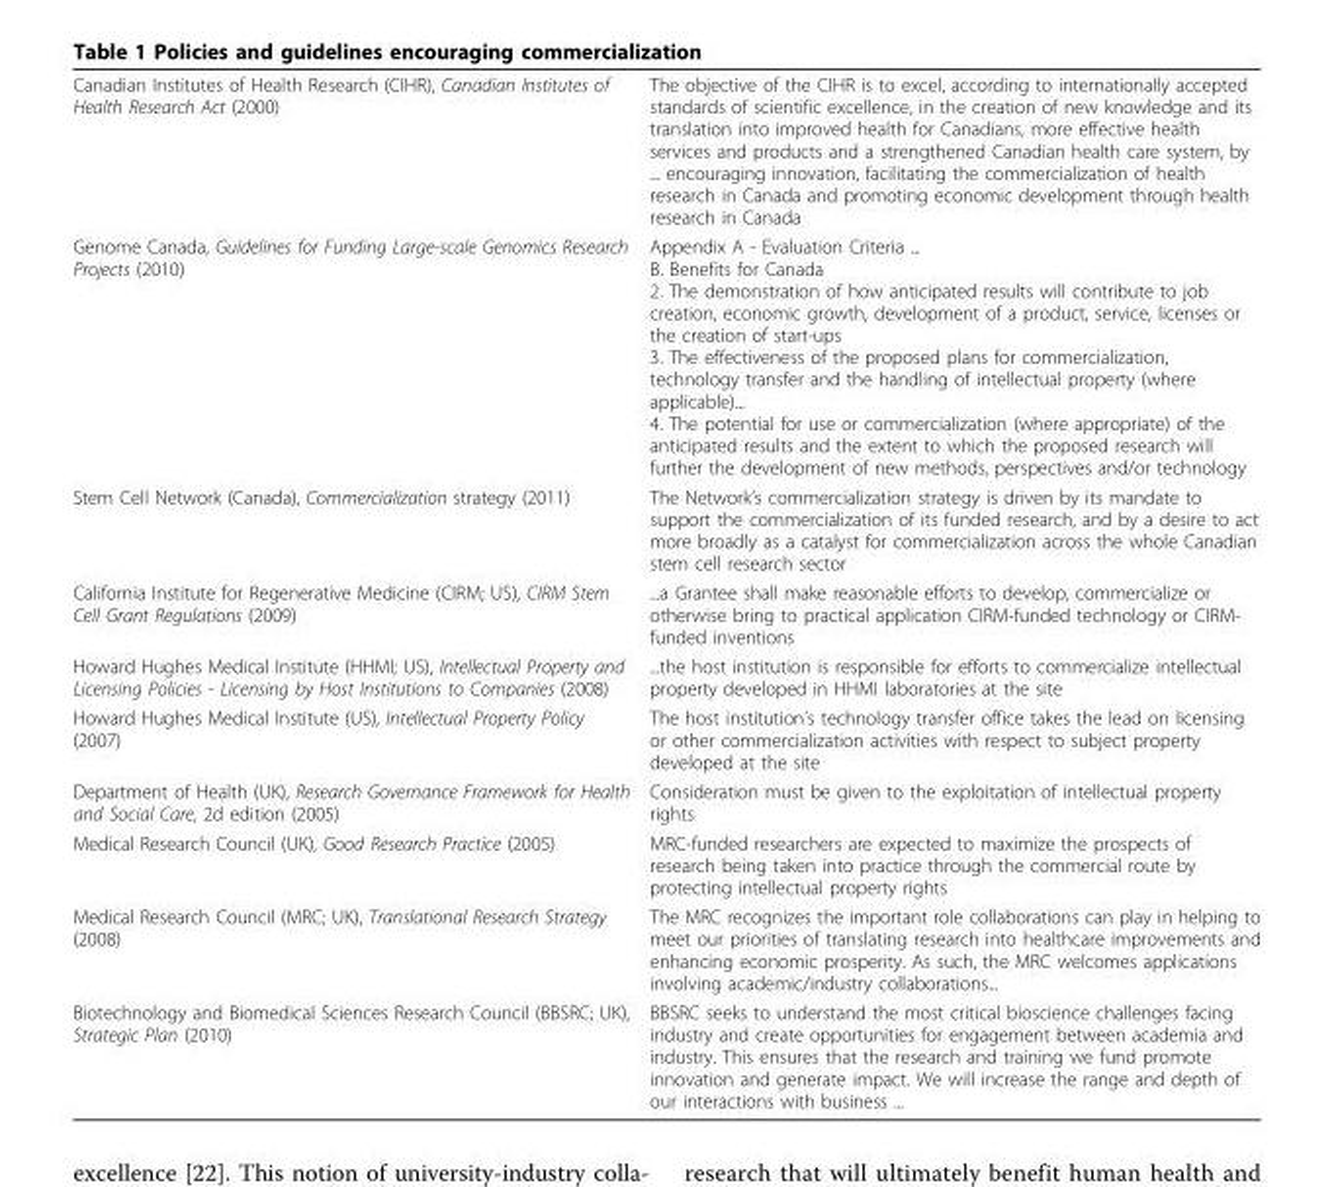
<table><tbody><tr><td>Canadian Institutes of Health Research (CIHR), Canadian Institutes of Health Research Act (2000)</td><td>The objective of the CIHR is to excel, according to internationally accepted standards of scientific excellence, in the creation of new knowledge and its translation into improved health for Canadians, more effective health services and products and a strengthened Canadian health care system, by ... encouraging innovation, facilitating the commercialization of health research in Canada and promoting economic development through health research in Canada</td></tr><tr><td>Genome Canada, Guidelines for Funding Large-scale Genomics Research Projects (2010)</td><td>Appendix A - Evaluation Criteria ... B. Benefits for Canada 2. The demonstration of how anticipated results will contribute to job creation, economic growth, development of a product, service, licenses or the creation of start-ups 3. The effectiveness of the proposed plans for commercialization, technology transfer and the handling of intellectual property (where applicable)... 4. The potential for use or commercialization (where appropriate) of the anticipated results and the extent to which the proposed research will further the development of new methods, perspectives and/or technology</td></tr><tr><td>Stem Cell Network (Canada), Commercialization strategy (2011)</td><td>The Network’s commercialization strategy is driven by its mandate to support the commercialization of its funded research, and by a desire to act more broadly as a catalyst for commercialization across the whole Canadian stem cell research sector</td></tr><tr><td>California Institute for Regenerative Medicine (CIRM; US), CIRM Stem Cell Grant Regulations (2009)</td><td>...a Grantee shall make reasonable efforts to develop, commercialize or otherwise bring to practical application CIRM-funded technology or CIRM- funded inventions</td></tr><tr><td>Howard Hughes Medical Institute (HHMI; US), Intellectual Property and Licensing Policies - Licensing by Host Institutions to Companies (2008)</td><td>...the host institution is responsible for efforts to commercialize intellectual property developed in HHMI laboratories at the site</td></tr><tr><td>Howard Hughes Medical Institute (US), Intellectual Property Policy (2007)</td><td>The host institution’s technology transfer office takes the lead on licensing or other commercialization activities with respect to subject property developed at the site</td></tr><tr><td>Department of Health (UK), Research Governance Framework for Health and Social Care, 2d edition (2005)</td><td>Consideration must be given to the exploitation of intellectual property rights</td></tr><tr><td>Medical Research Council (UK), Good Research Practice (2005)</td><td>MRC-funded researchers are expected to maximize the prospects of research being taken into practice through the commercial route by protecting intellectual property rights</td></tr><tr><td>Medical Research Council (MRC; UK), Translational Research Strategy (2008)</td><td>The MRC recognizes the important role collaborations can play in helping to meet our priorities of translating research into healthcare improvements and enhancing economic prosperity. As such, the MRC welcomes applications involving academic/industry collaborations...</td></tr><tr><td>Biotechnology and Biomedical Sciences Research Council (BBSRC; UK), Strategic Plan (2010)</td><td>BBSRC seeks to understand the most critical bioscience challenges facing industry and create opportunities for engagement between academia and industry. This ensures that the research and training we fund promote innovation and generate impact. We will increase the range and depth of our interactions with business ...</td></tr></tbody></table>